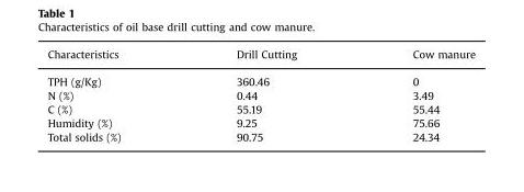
<table><thead><tr><td>Characteristics</td><td>Drill Cutting</td><td>Cow manure</td></tr></thead><tbody><tr><td>TPH (g/Kg)</td><td>360.46</td><td>0</td></tr><tr><td>N (%)</td><td>0.44</td><td>3.49</td></tr><tr><td>C (%)</td><td>55.19</td><td>55.44</td></tr><tr><td>Humidity (%)</td><td>9.25</td><td>75.66</td></tr><tr><td>Total solids (%)</td><td>90.75</td><td>24.34</td></tr></tbody></table>